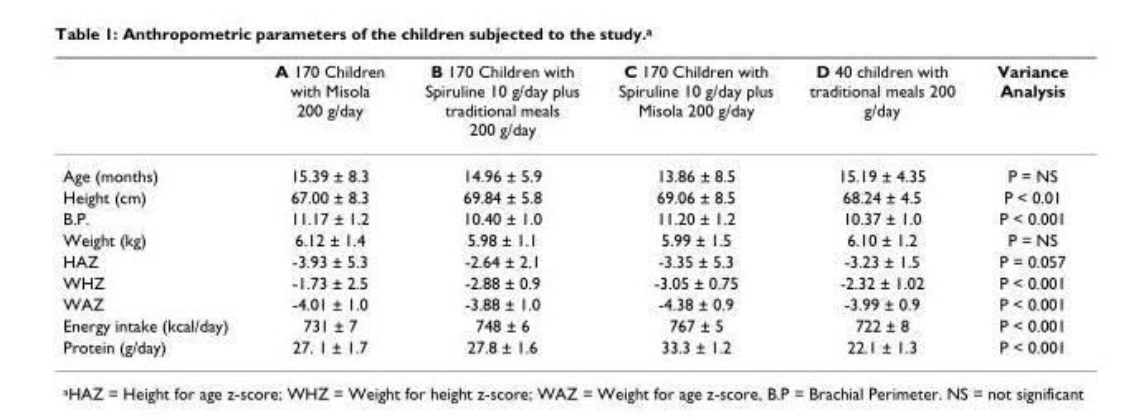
<table><thead><tr><td></td><td>A 170 Children with Misola 200 g/day</td><td>B 170 Children with Spiruline 10 g/day plus traditional meals 200 g/day</td><td>C 170 Children with Spiruline 10 g/day plus Misola 200 g/day</td><td>D 40 children with traditional meals 200 g/day</td><td>Variance Analysis</td></tr></thead><tbody><tr><td>Age (months)</td><td>15.39 ± 8.3</td><td>14.96 ± 5.9</td><td>13.86 ± 8.5</td><td>15.19 ± 4.35</td><td>P = NS</td></tr><tr><td>Height (cm)</td><td>67.00 ± 8.3</td><td>69.84 ± 5.8</td><td>69.06 ± 8.5</td><td>68.24 ± 4.5</td><td>P &lt; 0.01</td></tr><tr><td>B.P.</td><td>11.17 ± 1.2</td><td>10.40 ± 1.0</td><td>11.20 ± 1.2</td><td>10.37 ± 1.0</td><td>P &lt; 0.001</td></tr><tr><td>Weight (kg)</td><td>6.12 ± 1.4</td><td>5.98 ± 1.1</td><td>5.99 ± 1.5</td><td>6.10 ± 1.2</td><td>P = NS</td></tr><tr><td>HAZ</td><td>-3.93 ± 5.3</td><td>-2.64 ± 2.1</td><td>-3.35 ± 5.3</td><td>-3.23 ± 1.5</td><td>P = 0.057</td></tr><tr><td>WHZ</td><td>-1.73 ± 2.5</td><td>-2.88 ± 0.9</td><td>-3.05 ± 0.75</td><td>-2.32 ± 1.02</td><td>P &lt; 0.001</td></tr><tr><td>WAZ</td><td>-4.01 ± 1.0</td><td>-3.88 ± 1.0</td><td>-4.38 ± 0.9</td><td>-3.99 ± 0.9</td><td>P &lt; 0.001</td></tr><tr><td>Energy intake (kcal/day)</td><td>731 ± 7</td><td>748 ± 6</td><td>767 ± 5</td><td>722 ± 8</td><td>P &lt; 0.001</td></tr><tr><td>Protein (g/day)</td><td>27. 1 ± 1.7</td><td>27.8 ± 1.6</td><td>33.3 ± 1.2</td><td>22.1 ± 1.3</td><td>P &lt; 0.001</td></tr></tbody></table>